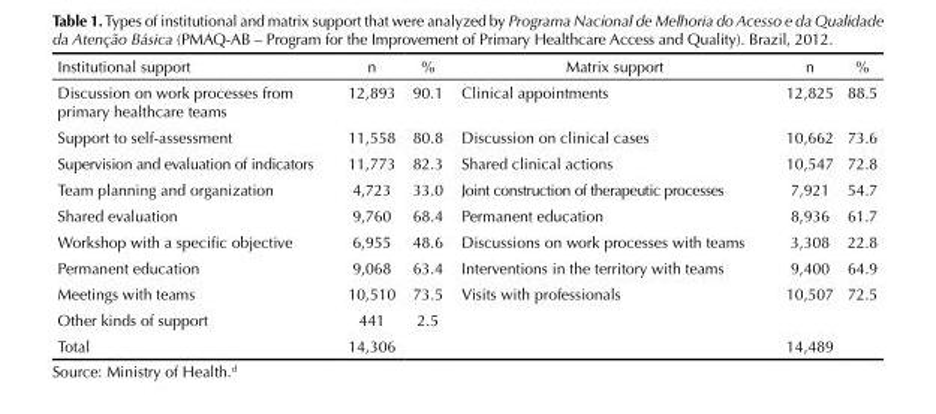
<table><thead><tr><td>Institutional support</td><td>n</td><td>%</td><td>Matrix support</td><td>n</td><td>%</td></tr></thead><tbody><tr><td>Discussion on work processes from primary healthcare teams</td><td>12,893</td><td>90.1</td><td>Clinical appointments</td><td>12,825</td><td>88.5</td></tr><tr><td>Support to self-assessment</td><td>11,558</td><td>80.8</td><td>Discussion on clinical cases</td><td>10,662</td><td>73.6</td></tr><tr><td>Supervision and evaluation of indicators</td><td>11,773</td><td>82.3</td><td>Shared clinical actions</td><td>10,547</td><td>72.8</td></tr><tr><td>Team planning and organization</td><td>4,723</td><td>33.0</td><td>Joint construction of therapeutic processes</td><td>7,921</td><td>54.7</td></tr><tr><td>Shared evaluation</td><td>9,760</td><td>68.4</td><td>Permanent education</td><td>8,936</td><td>61.7</td></tr><tr><td>Workshop with a specific objective</td><td>6,955</td><td>48.6</td><td>Discussions on work processes with teams</td><td>3,308</td><td>22.8</td></tr><tr><td>Permanent education</td><td>9,068</td><td>63.4</td><td>Interventions in the territory with teams</td><td>9,400</td><td>64.9</td></tr><tr><td>Meetings with teams</td><td>10,510</td><td>73.5</td><td>Visits with professionals</td><td>10,507</td><td>72.5</td></tr><tr><td>Other kinds of support</td><td>441</td><td>2.5</td><td></td><td></td><td></td></tr><tr><td>Total</td><td>14,306</td><td></td><td></td><td>14,489</td><td></td></tr></tbody></table>